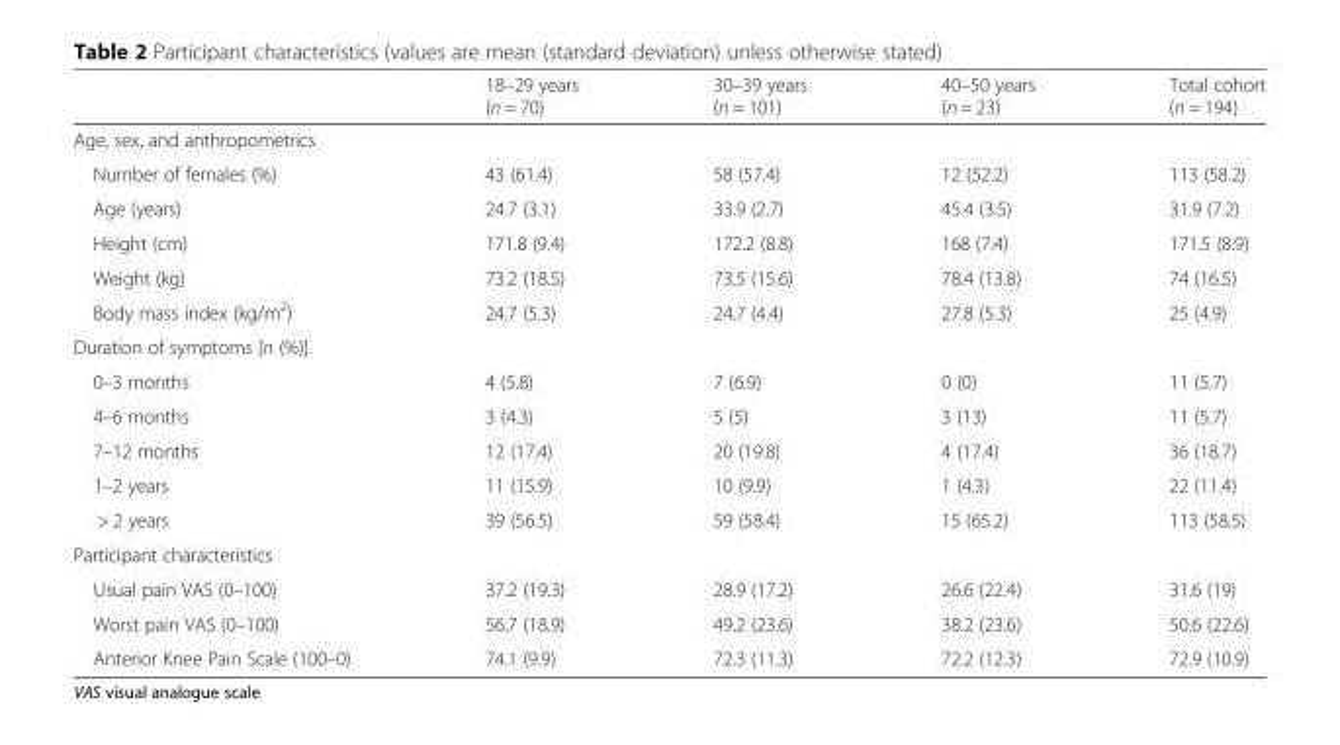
<table><thead><tr><td></td><td>18–29 years (n = 70)</td><td>30–39 years (n = 101)</td><td>40–50 years (n = 23)</td><td>Total cohort (n = 194)</td></tr></thead><tbody><tr><td colspan="5">Age, sex, and anthropometrics</td></tr><tr><td>Number of females (%)</td><td>43 (61.4)</td><td>58 (57.4)</td><td>12 (52.2)</td><td>113 (58.2)</td></tr><tr><td>Age (years)</td><td>24.7 (3.1)</td><td>33.9 (2.7)</td><td>45.4 (3.5)</td><td>31.9 (7.2)</td></tr><tr><td>Height (cm)</td><td>171.8 (9.4)</td><td>172.2 (8.8)</td><td>168 (7.4)</td><td>171.5 (8.9)</td></tr><tr><td>Weight (kg)</td><td>73.2 (18.5)</td><td>73.5 (15.6)</td><td>78.4 (13.8)</td><td>74 (16.5)</td></tr><tr><td>Body mass index (kg/m<sup>2</sup>)</td><td>24.7 (5.3)</td><td>24.7 (4.4)</td><td>27.8 (5.3)</td><td>25 (4.9)</td></tr><tr><td colspan="5">Duration of symptoms [n (%)]</td></tr><tr><td>0–3 months</td><td>4 (5.8)</td><td>7 (6.9)</td><td>0 (0)</td><td>11 (5.7)</td></tr><tr><td>4–6 months</td><td>3 (4.3)</td><td>5 (5)</td><td>3 (13)</td><td>11 (5.7)</td></tr><tr><td>7–12 months</td><td>12 (17.4)</td><td>20 (19.8)</td><td>4 (17.4)</td><td>36 (18.7)</td></tr><tr><td>1–2 years</td><td>11 (15.9)</td><td>10 (9.9)</td><td>1 (4.3)</td><td>22 (11.4)</td></tr><tr><td>&gt; 2 years</td><td>39 (56.5)</td><td>59 (58.4)</td><td>15 (65.2)</td><td>113 (58.5)</td></tr><tr><td colspan="5">Participant characteristics</td></tr><tr><td>Usual pain VAS (0–100)</td><td>37.2 (19.3)</td><td>28.9 (17.2)</td><td>26.6 (22.4)</td><td>31.6 (19)</td></tr><tr><td>Worst pain VAS (0–100)</td><td>56.7 (18.9)</td><td>49.2 (23.6)</td><td>38.2 (23.6)</td><td>50.6 (22.6)</td></tr><tr><td>Anterior Knee Pain Scale (100–0)</td><td>74.1 (9.9)</td><td>72.3 (11.3)</td><td>72.2 (12.3)</td><td>72.9 (10.9)</td></tr></tbody></table>